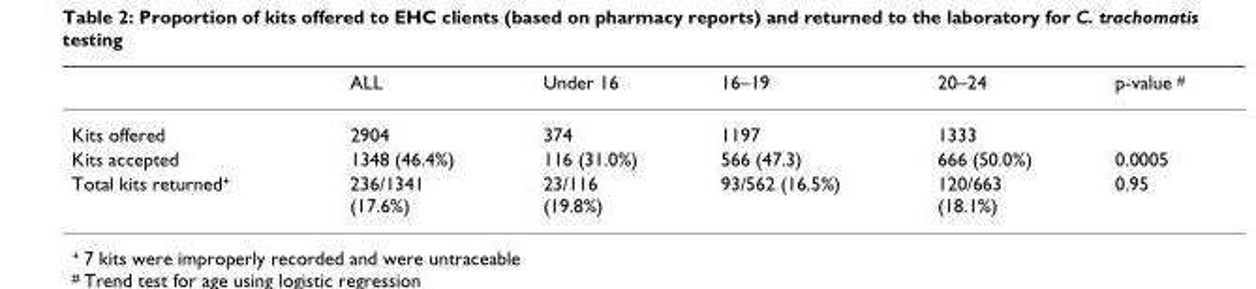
<table><thead><tr><td></td><td>ALL</td><td>Under 16</td><td>16–19</td><td>20–24</td><td>p-value <sup>#</sup></td></tr></thead><tbody><tr><td>Kits offered</td><td>2904</td><td>374</td><td>1197</td><td>1333</td><td></td></tr><tr><td>Kits accepted</td><td>1348 (46.4%)</td><td>116 (31.0%)</td><td>566 (47.3)</td><td>666 (50.0%)</td><td>0.0005</td></tr><tr><td>Total kits returned<sup>+</sup></td><td>236/1341 (17.6%)</td><td>23/116 (19.8%)</td><td>93/562 (16.5%)</td><td>120/663 (18.1%)</td><td>0.95</td></tr></tbody></table>